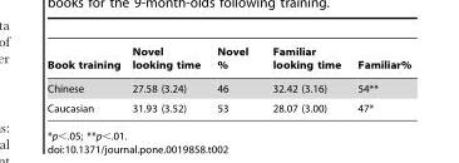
<table><thead><tr><td>Book training</td><td>Novel looking time</td><td>Novel %</td><td>Familiar looking time</td><td>Familiar%</td></tr></thead><tbody><tr><td>Chinese</td><td>27.58 (3.24)</td><td>46</td><td>32.42 (3.16)</td><td>54**</td></tr><tr><td>Caucasian</td><td>31.93 (3.52)</td><td>53</td><td>28.07 (3.00)</td><td>47*</td></tr></tbody></table>